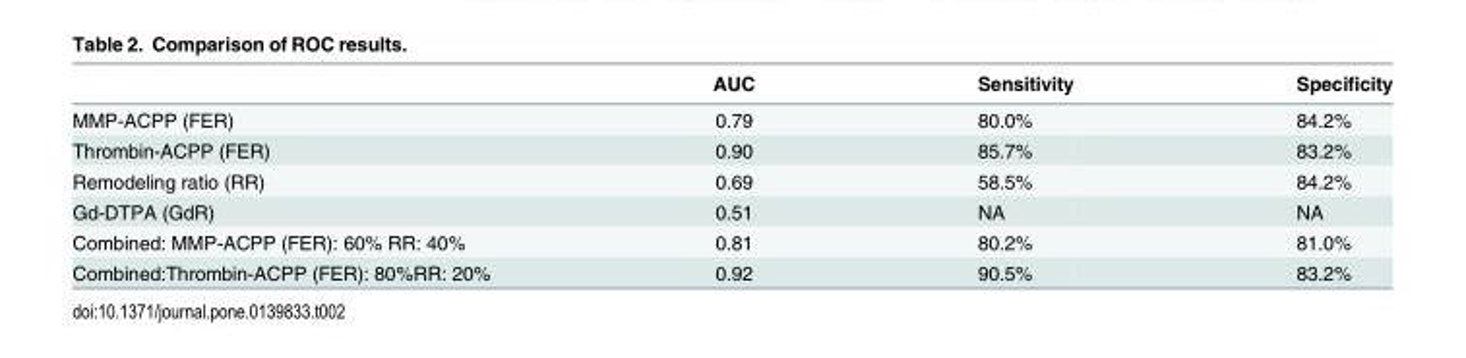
<table><thead><tr><td></td><td>AUC</td><td>Sensitivity</td><td>Specificity</td></tr></thead><tbody><tr><td>MMP-ACPP (FER)</td><td>0.79</td><td>80.0%</td><td>84.2%</td></tr><tr><td>Thrombin-ACPP (FER)</td><td>0.90</td><td>85.7%</td><td>83.2%</td></tr><tr><td>Remodeling ratio (RR)</td><td>0.69</td><td>58.5%</td><td>84.2%</td></tr><tr><td>Gd-DTPA (GdR)</td><td>0.51</td><td>NA</td><td>NA</td></tr><tr><td>Combined: MMP-ACPP (FER): 60% RR: 40%</td><td>0.81</td><td>80.2%</td><td>81.0%</td></tr><tr><td>Combined:Thrombin-ACPP (FER): 80%RR: 20%</td><td>0.92</td><td>90.5%</td><td>83.2%</td></tr></tbody></table>